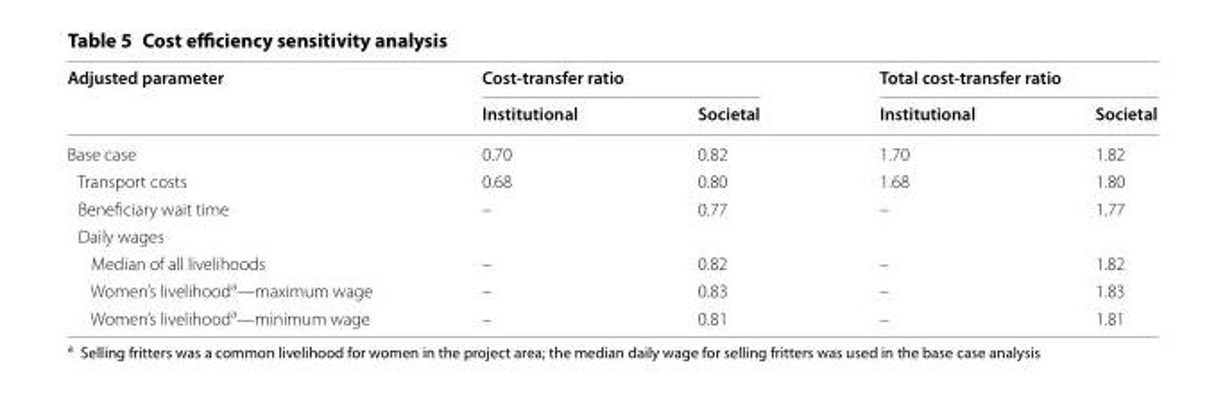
<table><thead><tr><td rowspan="2">Adjusted parameter</td><td colspan="2">Cost‑transfer ratio</td><td colspan="2">Total cost‑transfer ratio</td></tr><tr><td>Institutional</td><td>Societal</td><td>Institutional</td><td>Societal</td></tr></thead><tbody><tr><td>Base case</td><td>0.70</td><td>0.82</td><td>1.70</td><td>1.82</td></tr><tr><td>Transport costs</td><td>0.68</td><td>0.80</td><td>1.68</td><td>1.80</td></tr><tr><td>Beneficiary wait time</td><td>–</td><td>0.77</td><td>–</td><td>1.77</td></tr><tr><td colspan="5">Daily wages</td></tr><tr><td>Median of all livelihoods</td><td>–</td><td>0.82</td><td>–</td><td>1.82</td></tr><tr><td>Women’s livelihood<sup>a</sup>—maximum wage</td><td>–</td><td>0.83</td><td>–</td><td>1.83</td></tr><tr><td>Women’s livelihood<sup>a</sup>—minimum wage</td><td>–</td><td>0.81</td><td>–</td><td>1.81</td></tr></tbody></table>